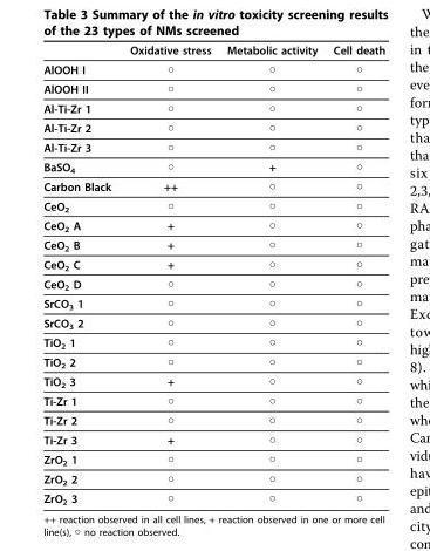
<table><thead><tr><td></td><td>Oxidative stress</td><td>Metabolic activity</td><td>Cell death</td></tr></thead><tbody><tr><td>AlOOH I</td><td>○</td><td>○</td><td>○</td></tr><tr><td>AlOOH II</td><td>○</td><td>○</td><td>○</td></tr><tr><td>Al-Ti-Zr 1</td><td>○</td><td>○</td><td>○</td></tr><tr><td>Al-Ti-Zr 2</td><td>○</td><td>○</td><td>○</td></tr><tr><td>Al-Ti-Zr 3</td><td>○</td><td>○</td><td>○</td></tr><tr><td>BaSO4</td><td>○</td><td>+</td><td>○</td></tr><tr><td>Carbon Black</td><td>++</td><td>○</td><td>○</td></tr><tr><td>CeO2</td><td>○</td><td>○</td><td>○</td></tr><tr><td>CeO2 A</td><td>+</td><td>○</td><td>○</td></tr><tr><td>CeO2 B</td><td>+</td><td>○</td><td>○</td></tr><tr><td>CeO2 C</td><td>+</td><td>○</td><td>○</td></tr><tr><td>CeO2 D</td><td>○</td><td>○</td><td>○</td></tr><tr><td>SrCO3 1</td><td>○</td><td>○</td><td>○</td></tr><tr><td>SrCO3 2</td><td>○</td><td>○</td><td>○</td></tr><tr><td>TiO2 1</td><td>○</td><td>○</td><td>○</td></tr><tr><td>TiO2 2</td><td>○</td><td>○</td><td>○</td></tr><tr><td>TiO2 3</td><td>+</td><td>○</td><td>○</td></tr><tr><td>Ti-Zr 1</td><td>○</td><td>○</td><td>○</td></tr><tr><td>Ti-Zr 2</td><td>○</td><td>○</td><td>○</td></tr><tr><td>Ti-Zr 3</td><td>+</td><td>○</td><td>○</td></tr><tr><td>ZrO2 1</td><td>○</td><td>○</td><td>○</td></tr><tr><td>ZrO2 2</td><td>○</td><td>○</td><td>○</td></tr><tr><td>ZrO2 3</td><td>○</td><td>○</td><td>○</td></tr></tbody></table>